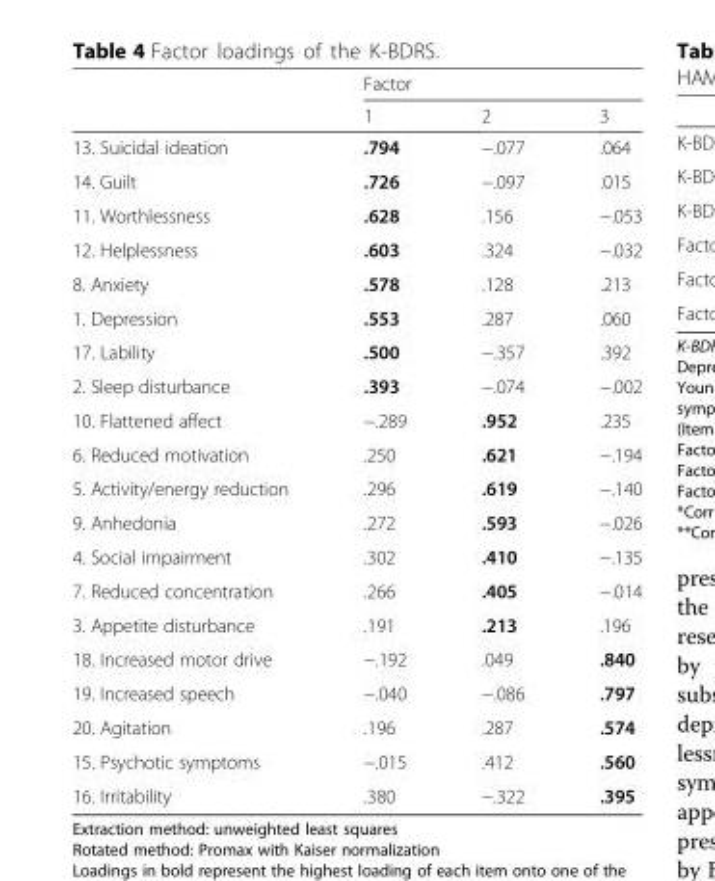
<table><thead><tr><td rowspan="2"></td><td colspan="3">Factor</td></tr><tr><td>1</td><td>2</td><td>3</td></tr></thead><tbody><tr><td>13. Suicidal ideation</td><td>.794</td><td>−.077</td><td>.064</td></tr><tr><td>14. Guilt</td><td>.726</td><td>−.097</td><td>.015</td></tr><tr><td>11. Worthlessness</td><td>.628</td><td>.156</td><td>−.053</td></tr><tr><td>12. Helplessness</td><td>.603</td><td>.324</td><td>−.032</td></tr><tr><td>8. Anxiety</td><td>.578</td><td>.128</td><td>.213</td></tr><tr><td>1. Depression</td><td>.553</td><td>.287</td><td>.060</td></tr><tr><td>17. Lability</td><td>.500</td><td>−.357</td><td>.392</td></tr><tr><td>2. Sleep disturbance</td><td>.393</td><td>−.074</td><td>−.002</td></tr><tr><td>10. Flattened affect</td><td>−.289</td><td>.952</td><td>.235</td></tr><tr><td>6. Reduced motivation</td><td>.250</td><td>.621</td><td>−.194</td></tr><tr><td>5. Activity/energy reduction</td><td>.296</td><td>.619</td><td>−.140</td></tr><tr><td>9. Anhedonia</td><td>.272</td><td>.593</td><td>−.026</td></tr><tr><td>4. Social impairment</td><td>.302</td><td>.410</td><td>−.135</td></tr><tr><td>7. Reduced concentration</td><td>.266</td><td>.405</td><td>−.014</td></tr><tr><td>3. Appetite disturbance</td><td>.191</td><td>.213</td><td>.196</td></tr><tr><td>18. Increased motor drive</td><td>−.192</td><td>.049</td><td>.840</td></tr><tr><td>19. Increased speech</td><td>−.040</td><td>−.086</td><td>.797</td></tr><tr><td>20. Agitation</td><td>.196</td><td>.287</td><td>.574</td></tr><tr><td>15. Psychotic symptoms</td><td>−.015</td><td>.412</td><td>.560</td></tr><tr><td>16. Irritability</td><td>.380</td><td>−.322</td><td>.395</td></tr></tbody></table>